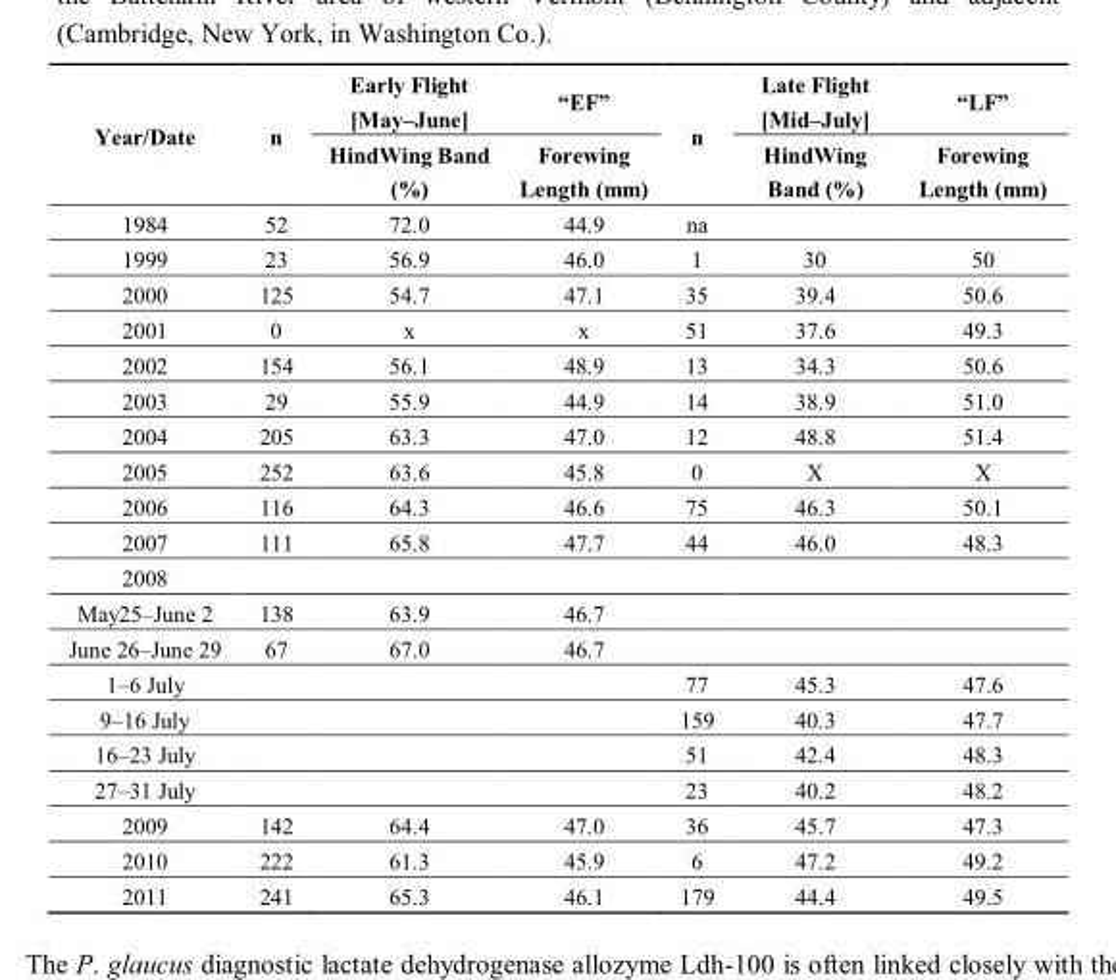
<table><thead><tr><td rowspan="2">Year/Date</td><td rowspan="2">n</td><td rowspan="2">Early Flight [May–June] HindWing Band (%)</td><td rowspan="2">“EF” Forewing Length (mm)</td><td rowspan="2">n</td><td rowspan="2">Late Flight [Mid–July] HindWing Band (%)</td><td rowspan="2">“LF” Forewing Length (mm)</td></tr><tr></tr></thead><tbody><tr><td>1984</td><td>52</td><td>72.0</td><td>44.9</td><td>na</td><td></td><td></td></tr><tr><td>1999</td><td>23</td><td>56.9</td><td>46.0</td><td>1</td><td>30</td><td>50</td></tr><tr><td>2000</td><td>125</td><td>54.7</td><td>47.1</td><td>35</td><td>39.4</td><td>50.6</td></tr><tr><td>2001</td><td>0</td><td>x</td><td>x</td><td>51</td><td>37.6</td><td>49.3</td></tr><tr><td>2002</td><td>154</td><td>56.1</td><td>48.9</td><td>13</td><td>34.3</td><td>50.6</td></tr><tr><td>2003</td><td>29</td><td>55.9</td><td>44.9</td><td>14</td><td>38.9</td><td>51.0</td></tr><tr><td>2004</td><td>205</td><td>63.3</td><td>47.0</td><td>12</td><td>48.8</td><td>51.4</td></tr><tr><td>2005</td><td>252</td><td>63.6</td><td>45.8</td><td>0</td><td>X</td><td>X</td></tr><tr><td>2006</td><td>116</td><td>64.3</td><td>46.6</td><td>75</td><td>46.3</td><td>50.1</td></tr><tr><td>2007</td><td>111</td><td>65.8</td><td>47.7</td><td>44</td><td>46.0</td><td>48.3</td></tr><tr><td colspan="7">2008</td></tr><tr><td>May25–June 2</td><td>138</td><td>63.9</td><td>46.7</td><td></td><td></td><td></td></tr><tr><td>June 26–June 29</td><td>67</td><td>67.0</td><td>46.7</td><td></td><td></td><td></td></tr><tr><td>1–6 July</td><td></td><td></td><td></td><td>77</td><td>45.3</td><td>47.6</td></tr><tr><td>9–16 July</td><td></td><td></td><td></td><td>159</td><td>40.3</td><td>47.7</td></tr><tr><td>16–23 July</td><td></td><td></td><td></td><td>51</td><td>42.4</td><td>48.3</td></tr><tr><td>27–31 July</td><td></td><td></td><td></td><td>23</td><td>40.2</td><td>48.2</td></tr><tr><td>2009</td><td>142</td><td>64.4</td><td>47.0</td><td>36</td><td>45.7</td><td>47.3</td></tr><tr><td>2010</td><td>222</td><td>61.3</td><td>45.9</td><td>6</td><td>47.2</td><td>49.2</td></tr><tr><td>2011</td><td>241</td><td>65.3</td><td>46.1</td><td>179</td><td>44.4</td><td>49.5</td></tr></tbody></table>